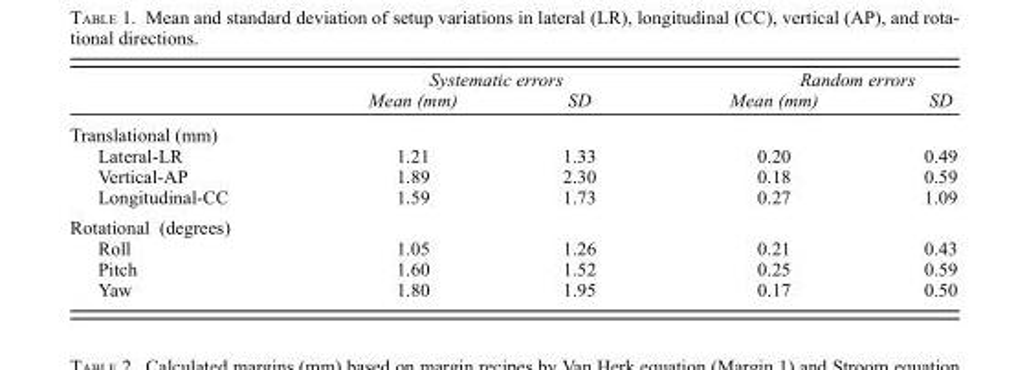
<table><thead><tr><td rowspan="2"></td><td colspan="2">Systematic errors</td><td colspan="2">Random errors</td></tr><tr><td>Mean (mm)</td><td>SD</td><td>Mean (mm)</td><td>SD</td></tr></thead><tbody><tr><td colspan="5">Translational (mm)</td></tr><tr><td>Lateral-LR</td><td>1.21</td><td>1.33</td><td>0.20</td><td>0.49</td></tr><tr><td>Vertical-AP</td><td>1.89</td><td>2.30</td><td>0.18</td><td>0.59</td></tr><tr><td>Longitudinal-CC</td><td>1.59</td><td>1.73</td><td>0.27</td><td>1.09</td></tr><tr><td colspan="5">Rotational (degrees)</td></tr><tr><td>Roll</td><td>1.05</td><td>1.26</td><td>0.21</td><td>0.43</td></tr><tr><td>Pitch</td><td>1.60</td><td>1.52</td><td>0.25</td><td>0.59</td></tr><tr><td>Yaw</td><td>1.80</td><td>1.95</td><td>0.17</td><td>0.50</td></tr></tbody></table>